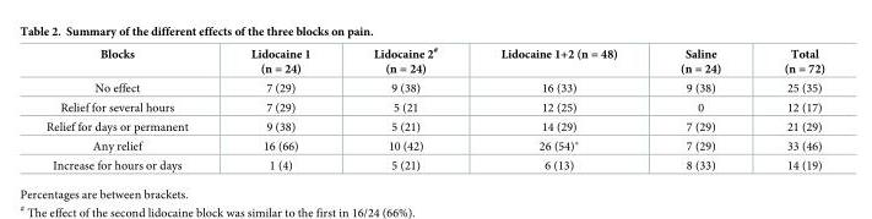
<table><thead><tr><td>Blocks</td><td>Lidocaine 1 (n = 24)</td><td>Lidocaine 2<sup>#</sup> (n = 24)</td><td>Lidocaine 1+2 (n = 48)</td><td>Saline (n = 24)</td><td>Total (n = 72)</td></tr></thead><tbody><tr><td>No effect</td><td>7 (29)</td><td>9 (38)</td><td>16 (33)</td><td>9 (38)</td><td>25 (35)</td></tr><tr><td>Relief for several hours</td><td>7 (29)</td><td>5 (21</td><td>12 (25)</td><td>0</td><td>12 (17)</td></tr><tr><td>Relief for days or permanent</td><td>9 (38)</td><td>5 (21)</td><td>14 (29)</td><td>7 (29)</td><td>21 (29)</td></tr><tr><td>Any relief</td><td>16 (66)</td><td>10 (42)</td><td>26 (54)*</td><td>7 (29)</td><td>33 (46)</td></tr><tr><td>Increase for hours or days</td><td>1 (4)</td><td>5 (21)</td><td>6 (13)</td><td>8 (33)</td><td>14 (19)</td></tr></tbody></table>